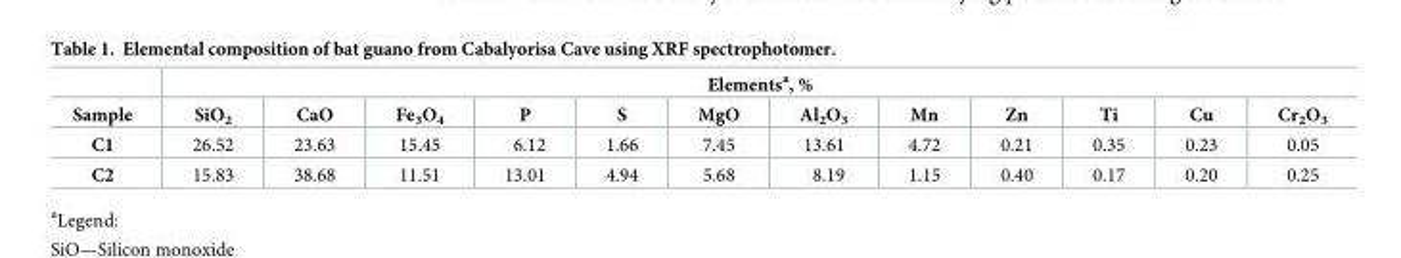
<table><thead><tr><td rowspan="2">Sample</td><td colspan="12">Elements<sup>a</sup>, %</td></tr><tr><td>SiO<sub>2</sub></td><td>CaO</td><td>Fe<sub>3</sub>O<sub>4</sub></td><td>P</td><td>S</td><td>MgO</td><td>Al<sub>2</sub>O<sub>3</sub></td><td>Mn</td><td>Zn</td><td>Ti</td><td>Cu</td><td>Cr<sub>2</sub>O<sub>3</sub></td></tr></thead><tbody><tr><td>C1</td><td>26.52</td><td>23.63</td><td>15.45</td><td>6.12</td><td>1.66</td><td>7.45</td><td>13.61</td><td>4.72</td><td>0.21</td><td>0.35</td><td>0.23</td><td>0.05</td></tr><tr><td>C2</td><td>15.83</td><td>38.68</td><td>11.51</td><td>13.01</td><td>4.94</td><td>5.68</td><td>8.19</td><td>1.15</td><td>0.40</td><td>0.17</td><td>0.20</td><td>0.25</td></tr></tbody></table>